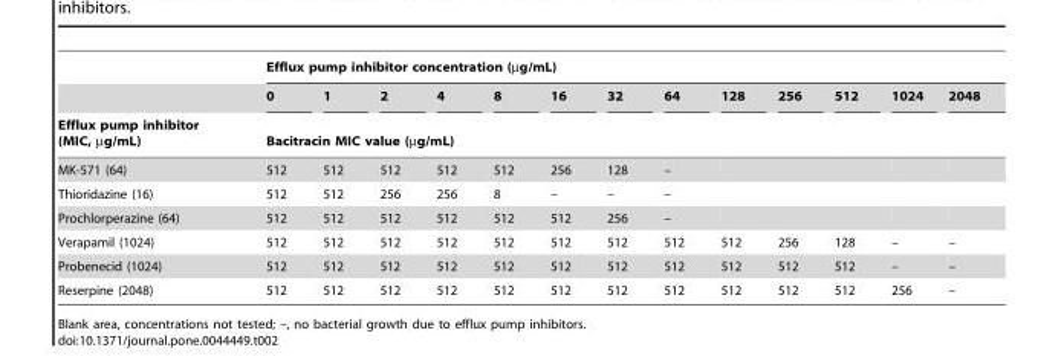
<table><thead><tr><td rowspan="3">Efflux pump inhibitor (MIC, µg/mL)</td><td colspan="13">Efflux pump inhibitor concentration (µg/mL)</td></tr><tr><td>0</td><td>1</td><td>2</td><td>4</td><td>8</td><td>16</td><td>32</td><td>64</td><td>128</td><td>256</td><td>512</td><td>1024</td><td>2048</td></tr><tr><td colspan="13">Bacitracin MIC value (µg/mL)</td></tr></thead><tbody><tr><td>MK-571 (64)</td><td>512</td><td>512</td><td>512</td><td>512</td><td>512</td><td>256</td><td>128</td><td>–</td><td></td><td></td><td></td><td></td><td></td></tr><tr><td>Thioridazine (16)</td><td>512</td><td>512</td><td>256</td><td>256</td><td>8</td><td>–</td><td>–</td><td>–</td><td></td><td></td><td></td><td></td><td></td></tr><tr><td>Prochlorperazine (64)</td><td>512</td><td>512</td><td>512</td><td>512</td><td>512</td><td>512</td><td>256</td><td>–</td><td></td><td></td><td></td><td></td><td></td></tr><tr><td>Verapamil (1024)</td><td>512</td><td>512</td><td>512</td><td>512</td><td>512</td><td>512</td><td>512</td><td>512</td><td>512</td><td>256</td><td>128</td><td>–</td><td>–</td></tr><tr><td>Probenecid (1024)</td><td>512</td><td>512</td><td>512</td><td>512</td><td>512</td><td>512</td><td>512</td><td>512</td><td>512</td><td>512</td><td>512</td><td>–</td><td>–</td></tr><tr><td>Reserpine (2048)</td><td>512</td><td>512</td><td>512</td><td>512</td><td>512</td><td>512</td><td>512</td><td>512</td><td>512</td><td>512</td><td>512</td><td>256</td><td>–</td></tr></tbody></table>